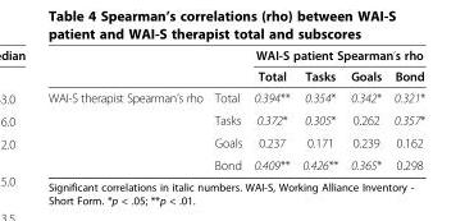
<table><thead><tr><td rowspan="2"></td><td rowspan="2"></td><td colspan="4">WAI-S patient Spearman’s rho</td></tr><tr><td>Total</td><td>Tasks</td><td>Goals</td><td>Bond</td></tr></thead><tbody><tr><td rowspan="4">WAI-S therapist Spearman’s rho</td><td>Total</td><td>0.394**</td><td>0.354*</td><td>0.342*</td><td>0.321*</td></tr><tr><td>Tasks</td><td>0.372*</td><td>0.305*</td><td>0.262</td><td>0.357*</td></tr><tr><td>Goals</td><td>0.237</td><td>0.171</td><td>0.239</td><td>0.162</td></tr><tr><td>Bond</td><td>0.409**</td><td>0.426**</td><td>0.365*</td><td>0.298</td></tr></tbody></table>